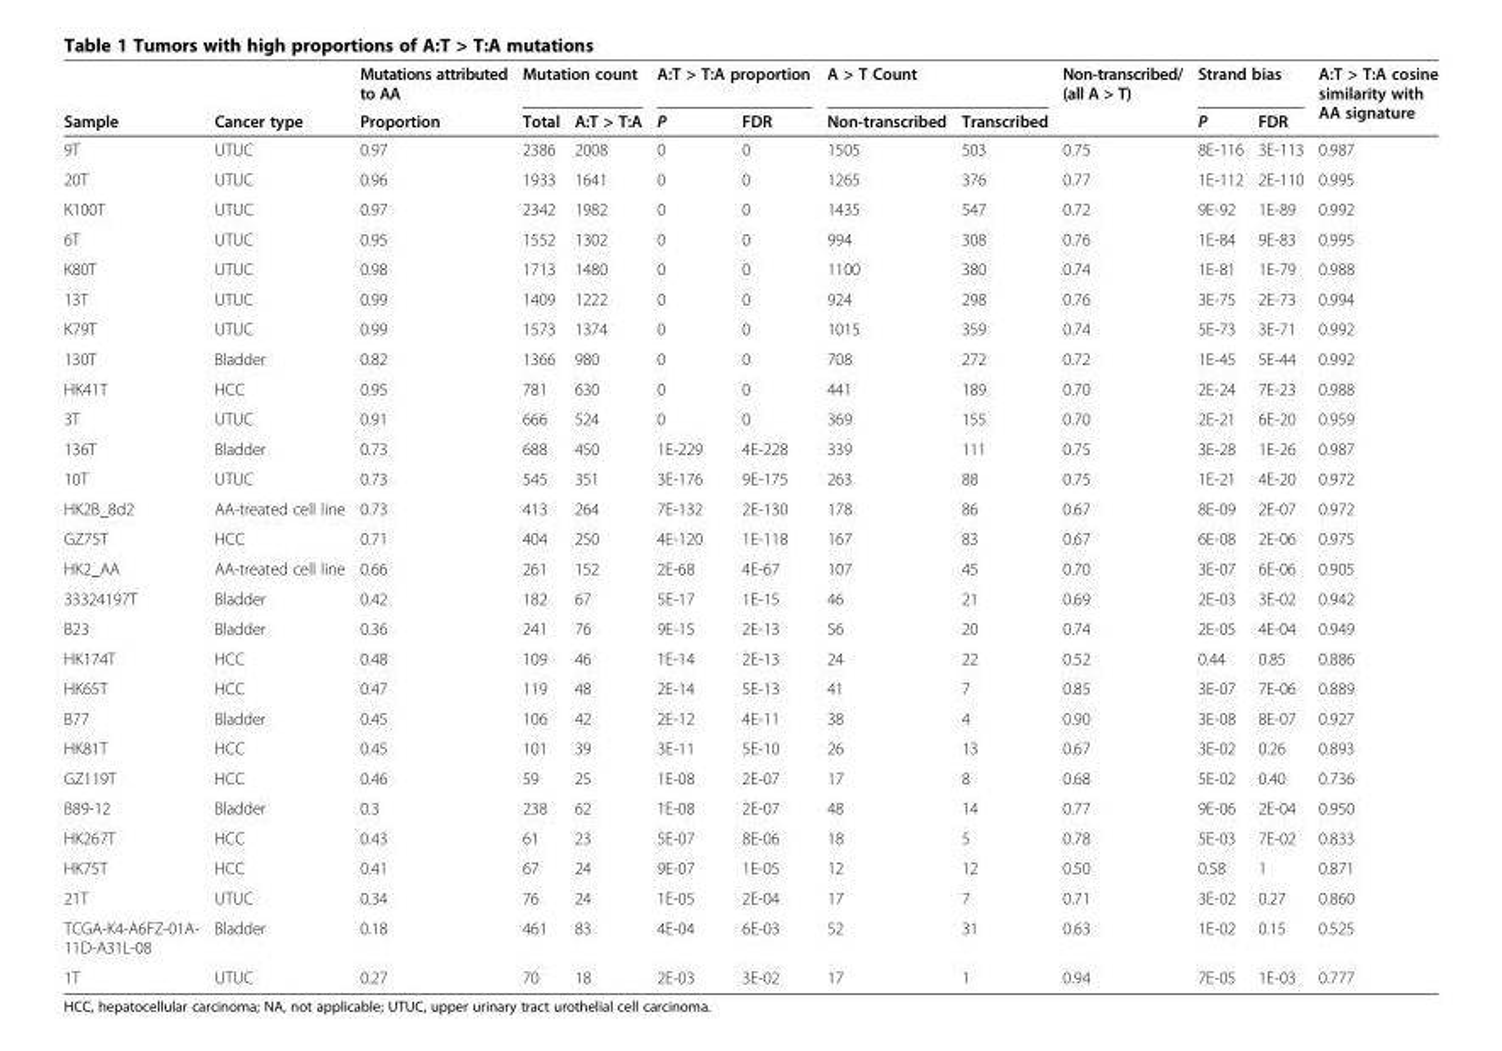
<table><thead><tr><td rowspan="2">Sample</td><td rowspan="2">Cancer type</td><td rowspan="2">Mutations attributed to AA Proportion</td><td colspan="2">Mutation count</td><td colspan="2">A:T &gt; T:A proportion</td><td colspan="2">A &gt; T Count</td><td rowspan="2">Non-transcribed/ (all A &gt; T)</td><td colspan="2">Strand bias</td><td rowspan="2">A:T &gt; T:A cosine similarity with AA signature</td></tr><tr><td>Total</td><td>A:T &gt; T:A</td><td>P</td><td>FDR</td><td>Non-transcribed</td><td>Transcribed</td><td>P</td><td>FDR</td></tr></thead><tbody><tr><td>9T</td><td>UTUC</td><td>0.97</td><td>2386</td><td>2008</td><td>0</td><td>0</td><td>1505</td><td>503</td><td>0.75</td><td>8E-116</td><td>3E-113</td><td>0.987</td></tr><tr><td>20T</td><td>UTUC</td><td>0.96</td><td>1933</td><td>1641</td><td>0</td><td>0</td><td>1265</td><td>376</td><td>0.77</td><td>1E-112</td><td>2E-110</td><td>0.995</td></tr><tr><td>K100T</td><td>UTUC</td><td>0.97</td><td>2342</td><td>1982</td><td>0</td><td>0</td><td>1435</td><td>547</td><td>0.72</td><td>9E-92</td><td>1E-89</td><td>0.992</td></tr><tr><td>6T</td><td>UTUC</td><td>0.95</td><td>1552</td><td>1302</td><td>0</td><td>0</td><td>994</td><td>308</td><td>0.76</td><td>1E-84</td><td>9E-83</td><td>0.995</td></tr><tr><td>K80T</td><td>UTUC</td><td>0.98</td><td>1713</td><td>1480</td><td>0</td><td>0</td><td>1100</td><td>380</td><td>0.74</td><td>1E-81</td><td>1E-79</td><td>0.988</td></tr><tr><td>13T</td><td>UTUC</td><td>0.99</td><td>1409</td><td>1222</td><td>0</td><td>0</td><td>924</td><td>298</td><td>0.76</td><td>3E-75</td><td>2E-73</td><td>0.994</td></tr><tr><td>K79T</td><td>UTUC</td><td>0.99</td><td>1573</td><td>1374</td><td>0</td><td>0</td><td>1015</td><td>359</td><td>0.74</td><td>5E-73</td><td>3E-71</td><td>0.992</td></tr><tr><td>130T</td><td>Bladder</td><td>0.82</td><td>1366</td><td>980</td><td>0</td><td>0</td><td>708</td><td>272</td><td>0.72</td><td>1E-45</td><td>5E-44</td><td>0.992</td></tr><tr><td>HK41T</td><td>HCC</td><td>0.95</td><td>781</td><td>630</td><td>0</td><td>0</td><td>441</td><td>189</td><td>0.70</td><td>2E-24</td><td>7E-23</td><td>0.988</td></tr><tr><td>3T</td><td>UTUC</td><td>0.91</td><td>666</td><td>524</td><td>0</td><td>0</td><td>369</td><td>155</td><td>0.70</td><td>2E-21</td><td>6E-20</td><td>0.959</td></tr><tr><td>136T</td><td>Bladder</td><td>0.73</td><td>688</td><td>450</td><td>1E-229</td><td>4E-228</td><td>339</td><td>111</td><td>0.75</td><td>3E-28</td><td>1E-26</td><td>0.987</td></tr><tr><td>10T</td><td>UTUC</td><td>0.73</td><td>545</td><td>351</td><td>3E-176</td><td>9E-175</td><td>263</td><td>88</td><td>0.75</td><td>1E-21</td><td>4E-20</td><td>0.972</td></tr><tr><td>HK2B_8d2</td><td>AA-treated cell line</td><td>0.73</td><td>413</td><td>264</td><td>7E-132</td><td>2E-130</td><td>178</td><td>86</td><td>0.67</td><td>8E-09</td><td>2E-07</td><td>0.972</td></tr><tr><td>GZ75T</td><td>HCC</td><td>0.71</td><td>404</td><td>250</td><td>4E-120</td><td>1E-118</td><td>167</td><td>83</td><td>0.67</td><td>6E-08</td><td>2E-06</td><td>0.975</td></tr><tr><td>HK2_AA</td><td>AA-treated cell line</td><td>0.66</td><td>261</td><td>152</td><td>2E-68</td><td>4E-67</td><td>107</td><td>45</td><td>0.70</td><td>3E-07</td><td>6E-06</td><td>0.905</td></tr><tr><td>33324197T</td><td>Bladder</td><td>0.42</td><td>182</td><td>67</td><td>5E-17</td><td>1E-15</td><td>46</td><td>21</td><td>0.69</td><td>2E-03</td><td>3E-02</td><td>0.942</td></tr><tr><td>B23</td><td>Bladder</td><td>0.36</td><td>241</td><td>76</td><td>9E-15</td><td>2E-13</td><td>56</td><td>20</td><td>0.74</td><td>2E-05</td><td>4E-04</td><td>0.949</td></tr><tr><td>HK174T</td><td>HCC</td><td>0.48</td><td>109</td><td>46</td><td>1E-14</td><td>2E-13</td><td>24</td><td>22</td><td>0.52</td><td>0.44</td><td>0.85</td><td>0.886</td></tr><tr><td>HK65T</td><td>HCC</td><td>0.47</td><td>119</td><td>48</td><td>2E-14</td><td>5E-13</td><td>41</td><td>7</td><td>0.85</td><td>3E-07</td><td>7E-06</td><td>0.889</td></tr><tr><td>B77</td><td>Bladder</td><td>0.45</td><td>106</td><td>42</td><td>2E-12</td><td>4E-11</td><td>38</td><td>4</td><td>0.90</td><td>3E-08</td><td>8E-07</td><td>0.927</td></tr><tr><td>HK81T</td><td>HCC</td><td>0.45</td><td>101</td><td>39</td><td>3E-11</td><td>5E-10</td><td>26</td><td>13</td><td>0.67</td><td>3E-02</td><td>0.26</td><td>0.893</td></tr><tr><td>GZ119T</td><td>HCC</td><td>0.46</td><td>59</td><td>25</td><td>1E-08</td><td>2E-07</td><td>17</td><td>8</td><td>0.68</td><td>5E-02</td><td>0.40</td><td>0.736</td></tr><tr><td>B89-12</td><td>Bladder</td><td>0.3</td><td>238</td><td>62</td><td>1E-08</td><td>2E-07</td><td>48</td><td>14</td><td>0.77</td><td>9E-06</td><td>2E-04</td><td>0.950</td></tr><tr><td>HK267T</td><td>HCC</td><td>0.43</td><td>61</td><td>23</td><td>5E-07</td><td>8E-06</td><td>18</td><td>5</td><td>0.78</td><td>5E-03</td><td>7E-02</td><td>0.833</td></tr><tr><td>HK75T</td><td>HCC</td><td>0.41</td><td>67</td><td>24</td><td>9E-07</td><td>1E-05</td><td>12</td><td>12</td><td>0.50</td><td>0.58</td><td>1</td><td>0.871</td></tr><tr><td>21T</td><td>UTUC</td><td>0.34</td><td>76</td><td>24</td><td>1E-05</td><td>2E-04</td><td>17</td><td>7</td><td>0.71</td><td>3E-02</td><td>0.27</td><td>0.860</td></tr><tr><td>TCGA-K4-A6FZ-01A- 11D-A31L-08</td><td>Bladder</td><td>0.18</td><td>461</td><td>83</td><td>4E-04</td><td>6E-03</td><td>52</td><td>31</td><td>0.63</td><td>1E-02</td><td>0.15</td><td>0.525</td></tr><tr><td>1T</td><td>UTUC</td><td>0.27</td><td>70</td><td>18</td><td>2E-03</td><td>3E-02</td><td>17</td><td>1</td><td>0.94</td><td>7E-05</td><td>1E-03</td><td>0.777</td></tr></tbody></table>